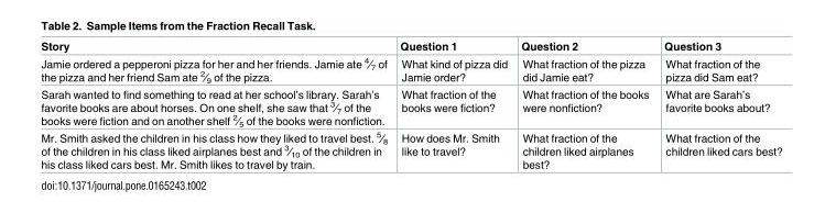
<table><thead><tr><td>Story</td><td>Question 1</td><td>Question 2</td><td>Question 3</td></tr></thead><tbody><tr><td>Jamie ordered a pepperoni pizza for her and her friends. Jamie ate <sup>4</sup>∕<sub>7</sub> of the pizza and her friend Sam ate <sup>2</sup>∕<sub>9</sub> of the pizza.</td><td>What kind of pizza did Jamie order?</td><td>What fraction of the pizza did Jamie eat?</td><td>What fraction of the pizza did Sam eat?</td></tr><tr><td>Sarah wanted to find something to read at her school’s library. Sarah’s favorite books are about horses. On one shelf, she saw that <sup>3</sup>∕<sub>7</sub> of the books were fiction and on another shelf <sup>2</sup>∕<sub>5</sub> of the books were nonfiction.</td><td>What fraction of the books were fiction?</td><td>What fraction of the books were nonfiction?</td><td>What are Sarah’s favorite books about?</td></tr><tr><td>Mr. Smith asked the children in his class how they liked to travel best. <sup>5</sup>∕<sub>8</sub> of the children in his class liked airplanes best and <sup>3</sup>∕<sub>10</sub> of the children in his class liked cars best. Mr. Smith likes to travel by train.</td><td>How does Mr. Smith like to travel?</td><td>What fraction of the children liked airplanes best?</td><td>What fraction of the children liked cars best?</td></tr></tbody></table>